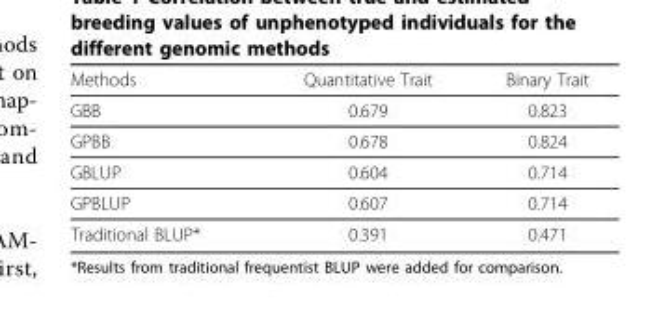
<table><thead><tr><td>Methods</td><td>Quantitative Trait</td><td>Binary Trait</td></tr></thead><tbody><tr><td>GBB</td><td>0.679</td><td>0.823</td></tr><tr><td>GPBB</td><td>0.678</td><td>0.824</td></tr><tr><td>GBLUP</td><td>0.604</td><td>0.714</td></tr><tr><td>GPBLUP</td><td>0.607</td><td>0.714</td></tr><tr><td>Traditional BLUP*</td><td>0.391</td><td>0.471</td></tr></tbody></table>